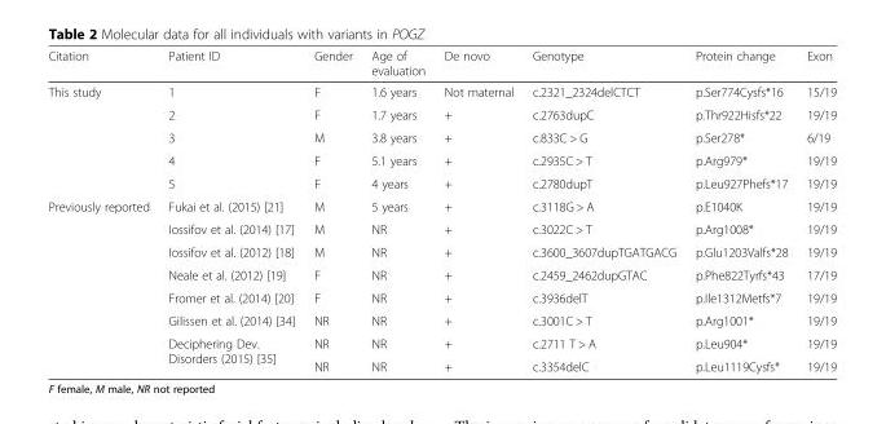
<table><thead><tr><td>Citation</td><td>Patient ID</td><td>Gender</td><td>Age of evaluation</td><td>De novo</td><td>Genotype</td><td>Protein change</td><td>Exon</td></tr></thead><tbody><tr><td rowspan="5">This study</td><td>1</td><td>F</td><td>1.6 years</td><td>Not maternal</td><td>c.2321_2324delCTCT</td><td>p.Ser774Cysfs*16</td><td>15/19</td></tr><tr><td>2</td><td>F</td><td>1.7 years</td><td>+</td><td>c.2763dupC</td><td>p.Thr922Hisfs*22</td><td>19/19</td></tr><tr><td>3</td><td>M</td><td>3.8 years</td><td>+</td><td>c.833C &gt; G</td><td>p.Ser278*</td><td>6/19</td></tr><tr><td>4</td><td>F</td><td>5.1 years</td><td>+</td><td>c.2935C &gt; T</td><td>p.Arg979*</td><td>19/19</td></tr><tr><td>5</td><td>F</td><td>4 years</td><td>+</td><td>c.2780dupT</td><td>p.Leu927Phefs*17</td><td>19/19</td></tr><tr><td rowspan="8">Previously reported</td><td>Fukai et al. (2015) [21]</td><td>M</td><td>5 years</td><td>+</td><td>c.3118G &gt; A</td><td>p.E1040K</td><td>19/19</td></tr><tr><td>Iossifov et al. (2014) [17]</td><td>M</td><td>NR</td><td>+</td><td>c.3022C &gt; T</td><td>p.Arg1008*</td><td>19/19</td></tr><tr><td>Iossifov et al. (2012) [18]</td><td>M</td><td>NR</td><td>+</td><td>c.3600_3607dupTGATGACG</td><td>p.Glu1203Valfs*28</td><td>19/19</td></tr><tr><td>Neale et al. (2012) [19]</td><td>F</td><td>NR</td><td>+</td><td>c.2459_2462dupGTAC</td><td>p.Phe822Tyrfs*43</td><td>17/19</td></tr><tr><td>Fromer et al. (2014) [20]</td><td>F</td><td>NR</td><td>+</td><td>c.3936delT</td><td>p.Ile1312Metfs*7</td><td>19/19</td></tr><tr><td>Gilissen et al. (2014) [34]</td><td>NR</td><td>NR</td><td>+</td><td>c.3001C &gt; T</td><td>p.Arg1001*</td><td>19/19</td></tr><tr><td rowspan="2">Deciphering Dev. Disorders (2015) [35]</td><td>NR</td><td>NR</td><td>+</td><td>c.2711 T &gt; A</td><td>p.Leu904*</td><td>19/19</td></tr><tr><td>NR</td><td>NR</td><td>+</td><td>c.3354delC</td><td>p.Leu1119Cysfs*</td><td>19/19</td></tr></tbody></table>